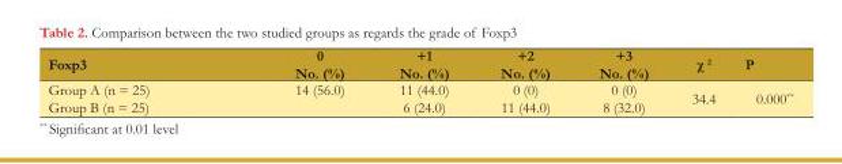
<table><tbody><tr><td>Foxp3</td><td>0 No. (%)</td><td>+1 No. (%)</td><td>+2 No. (%)</td><td>+3 No. (%)</td><td>χ <sup>2</sup></td><td>P</td></tr><tr><td>Group A (n = 25)</td><td>14 (56.0)</td><td>11 (44.0)</td><td>0 (0)</td><td>0 (0)</td><td rowspan="2">34.4</td><td rowspan="2">0.000**</td></tr><tr><td>Group B (n = 25)</td><td></td><td>6 (24.0)</td><td>11 (44.0)</td><td>8 (32.0)</td></tr></tbody></table>